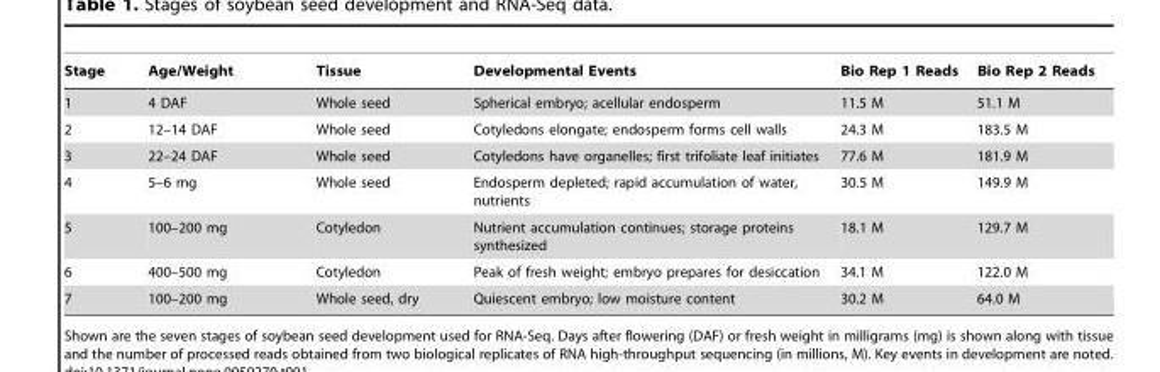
<table><thead><tr><td>Stage</td><td>Age/Weight</td><td>Tissue</td><td>Developmental Events</td><td>Bio Rep 1 Reads</td><td>Bio Rep 2 Reads</td></tr></thead><tbody><tr><td>1</td><td>4 DAF</td><td>Whole seed</td><td>Spherical embryo; acellular endosperm</td><td>11.5 M</td><td>51.1 M</td></tr><tr><td>2</td><td>12–14 DAF</td><td>Whole seed</td><td>Cotyledons elongate; endosperm forms cell walls</td><td>24.3 M</td><td>183.5 M</td></tr><tr><td>3</td><td>22–24 DAF</td><td>Whole seed</td><td>Cotyledons have organelles; first trifoliate leaf initiates</td><td>77.6 M</td><td>181.9 M</td></tr><tr><td>4</td><td>5–6 mg</td><td>Whole seed</td><td>Endosperm depleted; rapid accumulation of water, nutrients</td><td>30.5 M</td><td>149.9 M</td></tr><tr><td>5</td><td>100–200 mg</td><td>Cotyledon</td><td>Nutrient accumulation continues; storage proteins synthesized</td><td>18.1 M</td><td>129.7 M</td></tr><tr><td>6</td><td>400–500 mg</td><td>Cotyledon</td><td>Peak of fresh weight; embryo prepares for desiccation</td><td>34.1 M</td><td>122.0 M</td></tr><tr><td>7</td><td>100–200 mg</td><td>Whole seed, dry</td><td>Quiescent embryo; low moisture content</td><td>30.2 M</td><td>64.0 M</td></tr></tbody></table>